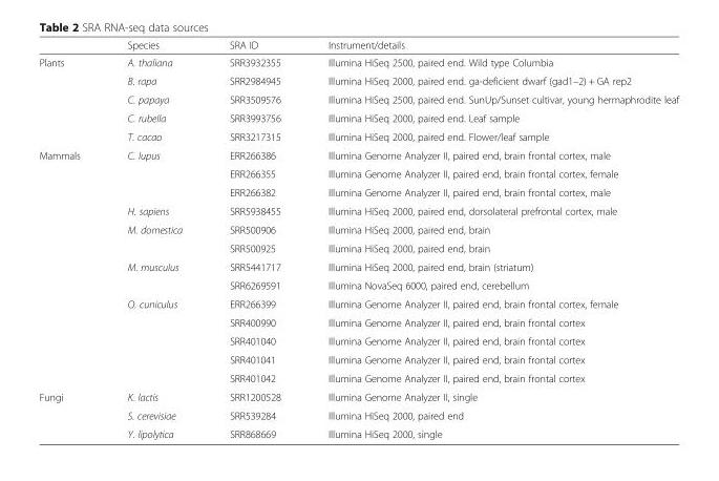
<table><thead><tr><td></td><td>Species</td><td>SRA ID</td><td>Instrument/details</td></tr></thead><tbody><tr><td rowspan="5">Plants</td><td>A. thaliana</td><td>SRR3932355</td><td>Illumina HiSeq 2500, paired end. Wild type Columbia</td></tr><tr><td>B. rapa</td><td>SRR2984945</td><td>Illumina HiSeq 2000, paired end. ga-deficient dwarf (gad1–2) + GA rep2</td></tr><tr><td>C. papaya</td><td>SRR3509576</td><td>Illumina HiSeq 2500, paired end. SunUp/Sunset cultivar, young hermaphrodite leaf</td></tr><tr><td>C. rubella</td><td>SRR3993756</td><td>Illumina HiSeq 2000, paired end. Leaf sample</td></tr><tr><td>T. cacao</td><td>SRR3217315</td><td>Illumina HiSeq 2000, paired end. Flower/leaf sample</td></tr><tr><td rowspan="13">Mammals</td><td rowspan="3">C. lupus</td><td>ERR266386</td><td>Illumina Genome Analyzer II, paired end, brain frontal cortex, male</td></tr><tr><td>ERR266355</td><td>Illumina Genome Analyzer II, paired end, brain frontal cortex, female</td></tr><tr><td>ERR266382</td><td>Illumina Genome Analyzer II, paired end, brain frontal cortex, male</td></tr><tr><td>H. sapiens</td><td>SRR5938455</td><td>Illumina HiSeq 2000, paired end, dorsolateral prefrontal cortex, male</td></tr><tr><td rowspan="2">M. domestica</td><td>SRR500906</td><td>Illumina HiSeq 2000, paired end, brain</td></tr><tr><td>SRR500925</td><td>Illumina HiSeq 2000, paired end, brain</td></tr><tr><td rowspan="2">M. musculus</td><td>SRR5441717</td><td>Illumina HiSeq 2000, paired end, brain (striatum)</td></tr><tr><td>SRR6269591</td><td>Illumina NovaSeq 6000, paired end, cerebellum</td></tr><tr><td rowspan="5">O. cuniculus</td><td>ERR266399</td><td>Illumina Genome Analyzer II, paired end, brain frontal cortex, female</td></tr><tr><td>SRR400990</td><td>Illumina Genome Analyzer II, paired end, brain frontal cortex</td></tr><tr><td>SRR401040</td><td>Illumina Genome Analyzer II, paired end, brain frontal cortex</td></tr><tr><td>SRR401041</td><td>Illumina Genome Analyzer II, paired end, brain frontal cortex</td></tr><tr><td>SRR401042</td><td>Illumina Genome Analyzer II, paired end, brain frontal cortex</td></tr><tr><td rowspan="3">Fungi</td><td>K. lactis</td><td>SRR1200528</td><td>Illumina Genome Analyzer II, single</td></tr><tr><td>S. cerevisiae</td><td>SRR539284</td><td>Illumina HiSeq 2000, paired end</td></tr><tr><td>Y. lipolytica</td><td>SRR868669</td><td>Illumina HiSeq 2000, single</td></tr></tbody></table>